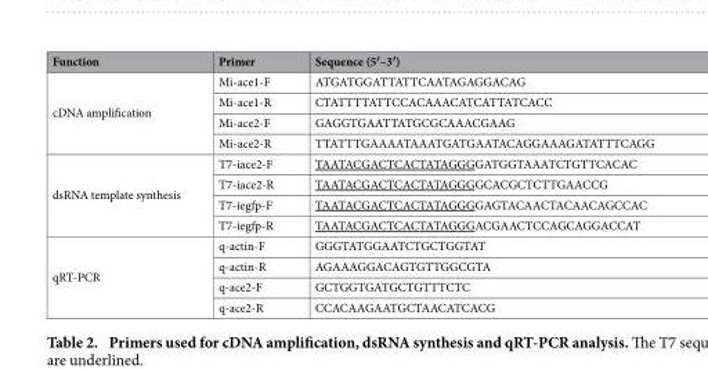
<table><thead><tr><td>Function</td><td>Primer</td><td>Sequence (5′–3′)</td></tr></thead><tbody><tr><td rowspan="4">cDNA amplification</td><td>Mi-ace1-F</td><td>ATGATGGATTATTCAATAGAGGACAG</td></tr><tr><td>Mi-ace1-R</td><td>CTATTTTATTCCACAAACATCATTATCACC</td></tr><tr><td>Mi-ace2-F</td><td>GAGGTGAATTATGCGCAAACGAAG</td></tr><tr><td>Mi-ace2-R</td><td>TTATTTGAAAATAAATGATGAATACAGGAAAGATATTTCAGG</td></tr><tr><td rowspan="4">dsRNA template synthesis</td><td>T7-iace2-F</td><td>TAATACGACTCACTATAGGGGATGGTAAATCTGTTCACAC</td></tr><tr><td>T7-iace2-R</td><td>TAATACGACTCACTATAGGGGCACGCTCTTGAACCG</td></tr><tr><td>T7-iegfp-F</td><td>TAATACGACTCACTATAGGGGAGTACAACTACAACAGCCAC</td></tr><tr><td>T7-iegfp-R</td><td>TAATACGACTCACTATAGGGACGAACTCCAGCAGGACCAT</td></tr><tr><td rowspan="4">qRT-PCR</td><td>q-actin-F</td><td>GGGTATGGAATCTGCTGGTAT</td></tr><tr><td>q-actin-R</td><td>AGAAAGGACAGTGTTGGCGTA</td></tr><tr><td>q-ace2-F</td><td>GCTGGTGATGCTGTTTCTC</td></tr><tr><td>q-ace2-R</td><td>CCACAAGAATGCTAACATCACG</td></tr></tbody></table>